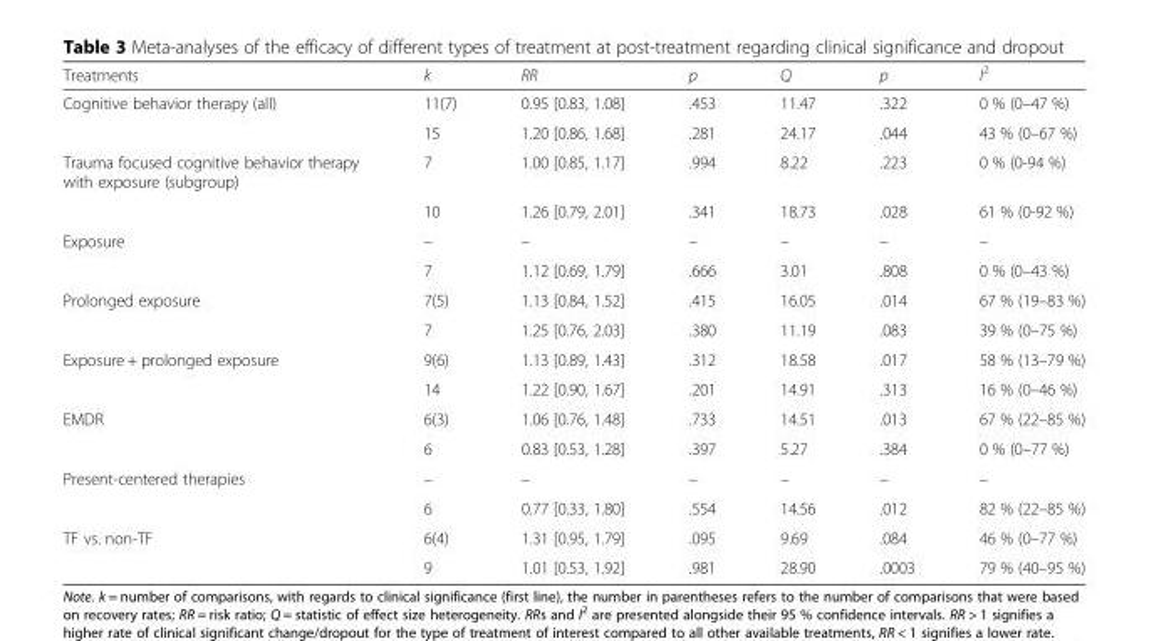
<table><thead><tr><td>Treatments</td><td>k</td><td>RR</td><td>p</td><td>Q</td><td>p</td><td>I<sup>2</sup></td></tr></thead><tbody><tr><td rowspan="2">Cognitive behavior therapy (all)</td><td>11(7)</td><td>0.95 [0.83, 1.08]</td><td>.453</td><td>11.47</td><td>.322</td><td>0 % (0–47 %)</td></tr><tr><td>15</td><td>1.20 [0.86, 1.68]</td><td>.281</td><td>24.17</td><td>.044</td><td>43 % (0–67 %)</td></tr><tr><td rowspan="2">Trauma focused cognitive behavior therapy with exposure (subgroup)</td><td>7</td><td>1.00 [0.85, 1.17]</td><td>.994</td><td>8.22</td><td>.223</td><td>0 % (0-94 %)</td></tr><tr><td>10</td><td>1.26 [0.79, 2.01]</td><td>.341</td><td>18.73</td><td>.028</td><td>61 % (0-92 %)</td></tr><tr><td rowspan="2">Exposure</td><td>–</td><td>–</td><td>–</td><td>–</td><td>–</td><td>–</td></tr><tr><td>7</td><td>1.12 [0.69, 1.79]</td><td>.666</td><td>3.01</td><td>.808</td><td>0 % (0–43 %)</td></tr><tr><td rowspan="2">Prolonged exposure</td><td>7(5)</td><td>1.13 [0.84, 1.52]</td><td>.415</td><td>16.05</td><td>.014</td><td>67 % (19–83 %)</td></tr><tr><td>7</td><td>1.25 [0.76, 2.03]</td><td>.380</td><td>11.19</td><td>.083</td><td>39 % (0–75 %)</td></tr><tr><td rowspan="2">Exposure + prolonged exposure</td><td>9(6)</td><td>1.13 [0.89, 1.43]</td><td>.312</td><td>18.58</td><td>.017</td><td>58 % (13–79 %)</td></tr><tr><td>14</td><td>1.22 [0.90, 1.67]</td><td>.201</td><td>14.91</td><td>.313</td><td>16 % (0–46 %)</td></tr><tr><td rowspan="2">EMDR</td><td>6(3)</td><td>1.06 [0.76, 1.48]</td><td>.733</td><td>14.51</td><td>.013</td><td>67 % (22–85 %)</td></tr><tr><td>6</td><td>0.83 [0.53, 1.28]</td><td>.397</td><td>5.27</td><td>.384</td><td>0 % (0–77 %)</td></tr><tr><td rowspan="2">Present-centered therapies</td><td>–</td><td>–</td><td>–</td><td>–</td><td>–</td><td>–</td></tr><tr><td>6</td><td>0.77 [0.33, 1.80]</td><td>.554</td><td>14.56</td><td>.012</td><td>82 % (22–85 %)</td></tr><tr><td rowspan="2">TF vs. non-TF</td><td>6(4)</td><td>1.31 [0.95, 1.79]</td><td>.095</td><td>9.69</td><td>.084</td><td>46 % (0–77 %)</td></tr><tr><td>9</td><td>1.01 [0.53, 1.92]</td><td>.981</td><td>28.90</td><td>.0003</td><td>79 % (40–95 %)</td></tr></tbody></table>